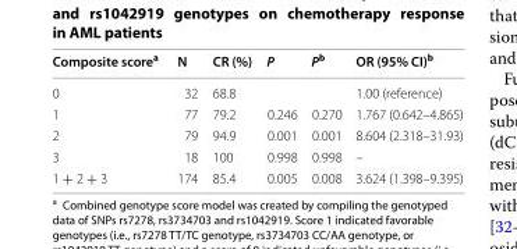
<table><thead><tr><td>Composite score<sup>a</sup></td><td>N</td><td>CR (%)</td><td>P</td><td>P<sup>b</sup></td><td>OR (95% CI)<sup>b</sup></td></tr></thead><tbody><tr><td>0</td><td>32</td><td>68.8</td><td></td><td></td><td>1.00 (reference)</td></tr><tr><td>1</td><td>77</td><td>79.2</td><td>0.246</td><td>0.270</td><td>1.767 (0.642–4.865)</td></tr><tr><td>2</td><td>79</td><td>94.9</td><td>0.001</td><td>0.001</td><td>8.604 (2.318–31.93)</td></tr><tr><td>3</td><td>18</td><td>100</td><td>0.998</td><td>0.998</td><td>–</td></tr><tr><td>1 + 2 + 3</td><td>174</td><td>85.4</td><td>0.005</td><td>0.008</td><td>3.624 (1.398–9.395)</td></tr></tbody></table>